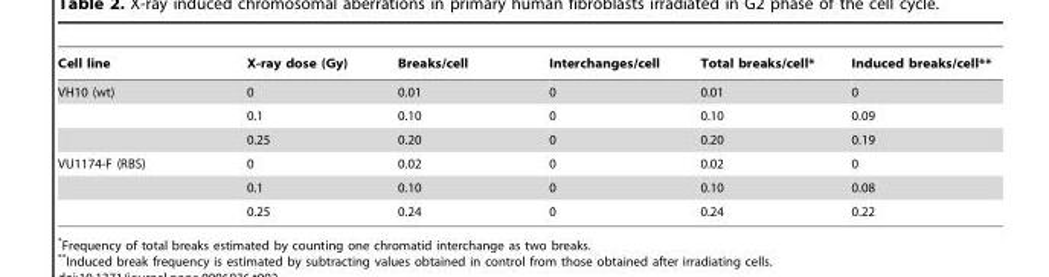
<table><thead><tr><td>Cell line</td><td>X-ray dose (Gy)</td><td>Breaks/cell</td><td>Interchanges/cell</td><td>Total breaks/cell*</td><td>Induced breaks/cell**</td></tr></thead><tbody><tr><td rowspan="3">VH10 (wt)</td><td>0</td><td>0.01</td><td>0</td><td>0.01</td><td>0</td></tr><tr><td>0.1</td><td>0.10</td><td>0</td><td>0.10</td><td>0.09</td></tr><tr><td>0.25</td><td>0.20</td><td>0</td><td>0.20</td><td>0.19</td></tr><tr><td rowspan="3">VU1174-F (RBS)</td><td>0</td><td>0.02</td><td>0</td><td>0.02</td><td>0</td></tr><tr><td>0.1</td><td>0.10</td><td>0</td><td>0.10</td><td>0.08</td></tr><tr><td>0.25</td><td>0.24</td><td>0</td><td>0.24</td><td>0.22</td></tr></tbody></table>